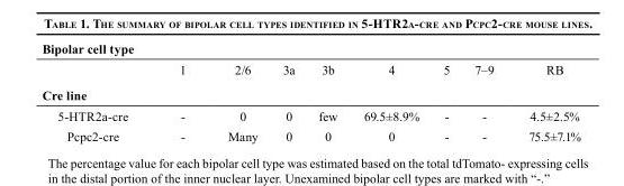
<table><thead><tr><td colspan="9">Bipolar cell type</td></tr><tr><td></td><td>1</td><td>2/6</td><td>3a</td><td>3b</td><td>4</td><td>5</td><td>7–9</td><td>RB</td></tr><tr><td colspan="9">Cre line</td></tr></thead><tbody><tr><td>5-HTR2a-cre</td><td>-</td><td>0</td><td>0</td><td>few</td><td>69.5±8.9%</td><td>-</td><td>-</td><td>4.5±2.5%</td></tr><tr><td>Pcpc2-cre</td><td>-</td><td>Many</td><td>0</td><td>0</td><td>0</td><td>-</td><td>-</td><td>75.5±7.1%</td></tr></tbody></table>